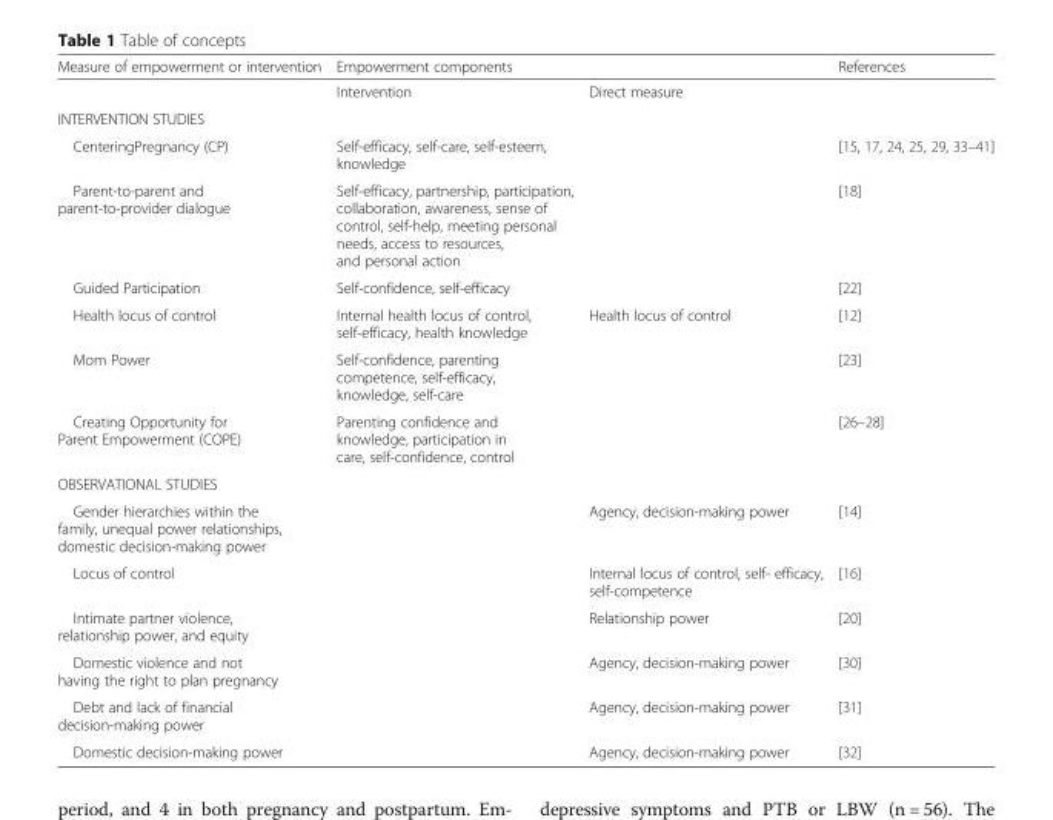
<table><thead><tr><td rowspan="2">Measure of empowerment or intervention</td><td colspan="2">Empowerment components</td><td rowspan="2">References</td></tr><tr><td>Intervention</td><td>Direct measure</td></tr></thead><tbody><tr><td colspan="4">INTERVENTION STUDIES</td></tr><tr><td>CenteringPregnancy (CP)</td><td>Self-efficacy, self-care, self-esteem, knowledge</td><td></td><td>[15, 17, 24, 25, 29, 33–41]</td></tr><tr><td>Parent-to-parent and parent-to-provider dialogue</td><td>Self-efficacy, partnership, participation, collaboration, awareness, sense of control, self-help, meeting personal needs, access to resources, and personal action</td><td></td><td>[18]</td></tr><tr><td>Guided Participation</td><td>Self-confidence, self-efficacy</td><td></td><td>[22]</td></tr><tr><td>Health locus of control</td><td>Internal health locus of control, self-efficacy, health knowledge</td><td>Health locus of control</td><td>[12]</td></tr><tr><td>Mom Power</td><td>Self-confidence, parenting competence, self-efficacy, knowledge, self-care</td><td></td><td>[23]</td></tr><tr><td>Creating Opportunity for Parent Empowerment (COPE)</td><td>Parenting confidence and knowledge, participation in care, self-confidence, control</td><td></td><td>[26–28]</td></tr><tr><td colspan="4">OBSERVATIONAL STUDIES</td></tr><tr><td>Gender hierarchies within the family, unequal power relationships, domestic decision-making power</td><td></td><td>Agency, decision-making power</td><td>[14]</td></tr><tr><td>Locus of control</td><td></td><td>Internal locus of control, self- efficacy, self-competence</td><td>[16]</td></tr><tr><td>Intimate partner violence, relationship power, and equity</td><td></td><td>Relationship power</td><td>[20]</td></tr><tr><td>Domestic violence and not having the right to plan pregnancy</td><td></td><td>Agency, decision-making power</td><td>[30]</td></tr><tr><td>Debt and lack of financial decision-making power</td><td></td><td>Agency, decision-making power</td><td>[31]</td></tr><tr><td>Domestic decision-making power</td><td></td><td>Agency, decision-making power</td><td>[32]</td></tr></tbody></table>